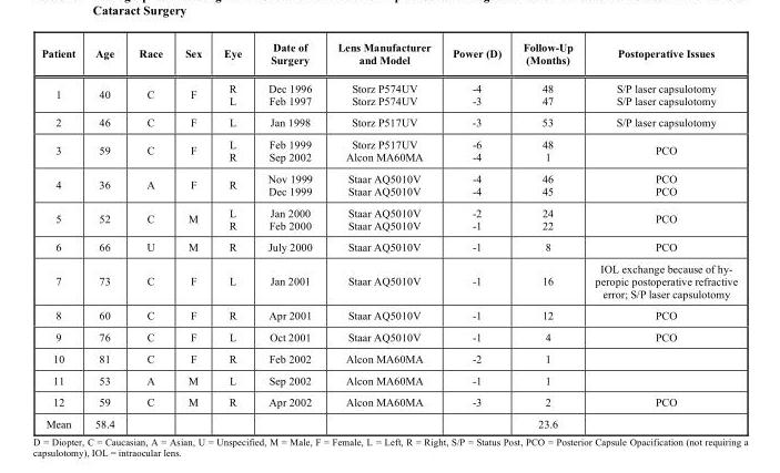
<table><thead><tr><td>Patient</td><td>Age</td><td>Race</td><td>Sex</td><td>Eye</td><td>Date of Surgery</td><td>Lens Manufacturer and Model</td><td>Power (D)</td><td>Follow-Up (Months)</td><td>Postoperative Issues</td></tr></thead><tbody><tr><td>1</td><td>40</td><td>C</td><td>F</td><td>R L</td><td>Dec 1996 Feb 1997</td><td>Storz P574UV Storz P574UV</td><td>-4 -3</td><td>48 47</td><td>S/P laser capsulotomy S/P laser capsulotomy</td></tr><tr><td>2</td><td>46</td><td>C</td><td>F</td><td>L</td><td>Jan 1998</td><td>Storz P517UV</td><td>-3</td><td>53</td><td>S/P laser capsulotomy</td></tr><tr><td>3</td><td>59</td><td>C</td><td>F</td><td>L R</td><td>Feb 1999 Sep 2002</td><td>Storz P517UV Alcon MA60MA</td><td>-6 -4</td><td>48 1</td><td>PCO</td></tr><tr><td>4</td><td>36</td><td>A</td><td>F</td><td>R</td><td>Nov 1999 Dec 1999</td><td>Staar AQ5010V Staar AQ5010V</td><td>-4 -4</td><td>46 45</td><td>PCO PCO</td></tr><tr><td>5</td><td>52</td><td>C</td><td>M</td><td>L R</td><td>Jan 2000 Feb 2000</td><td>Staar AQ5010V Staar AQ5010V</td><td>-2 -1</td><td>24 22</td><td>PCO</td></tr><tr><td>6</td><td>66</td><td>U</td><td>M</td><td>R</td><td>July 2000</td><td>Staar AQ5010V</td><td>-1</td><td>8</td><td>PCO</td></tr><tr><td>7</td><td>73</td><td>C</td><td>F</td><td>L</td><td>Jan 2001</td><td>Staar AQ5010V</td><td>-1</td><td>16</td><td>IOL exchange because of hy- peropic postoperative refractive error; S/P laser capsulotomy</td></tr><tr><td>8</td><td>60</td><td>C</td><td>F</td><td>R</td><td>Apr 2001</td><td>Staar AQ5010V</td><td>-1</td><td>12</td><td>PCO</td></tr><tr><td>9</td><td>76</td><td>C</td><td>F</td><td>L</td><td>Oct 2001</td><td>Staar AQ5010V</td><td>-1</td><td>4</td><td>PCO</td></tr><tr><td>10</td><td>81</td><td>C</td><td>F</td><td>R</td><td>Feb 2002</td><td>Alcon MA60MA</td><td>-2</td><td>1</td><td></td></tr><tr><td>11</td><td>53</td><td>A</td><td>M</td><td>L</td><td>Sep 2002</td><td>Alcon MA60MA</td><td>-1</td><td>1</td><td></td></tr><tr><td>12</td><td>59</td><td>C</td><td>M</td><td>R</td><td>Apr 2002</td><td>Alcon MA60MA</td><td>-3</td><td>2</td><td>PCO</td></tr><tr><td>Mean</td><td>58.4</td><td></td><td></td><td></td><td></td><td></td><td></td><td>23.6</td><td></td></tr></tbody></table>